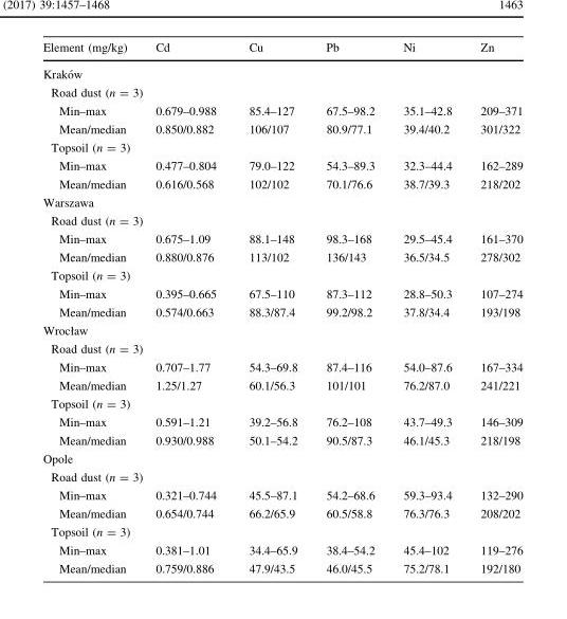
<table><thead><tr><td>Element (mg/kg)</td><td>Cd</td><td>Cu</td><td>Pb</td><td>Ni</td><td>Zn</td></tr></thead><tbody><tr><td colspan="6">Krako´w</td></tr><tr><td colspan="6">Road dust (n = 3)</td></tr><tr><td>Min–max</td><td>0.679–0.988</td><td>85.4–127</td><td>67.5–98.2</td><td>35.1–42.8</td><td>209–371</td></tr><tr><td>Mean/median</td><td>0.850/0.882</td><td>106/107</td><td>80.9/77.1</td><td>39.4/40.2</td><td>301/322</td></tr><tr><td colspan="6">Topsoil (n = 3)</td></tr><tr><td>Min–max</td><td>0.477–0.804</td><td>79.0–122</td><td>54.3–89.3</td><td>32.3–44.4</td><td>162–289</td></tr><tr><td>Mean/median</td><td>0.616/0.568</td><td>102/102</td><td>70.1/76.6</td><td>38.7/39.3</td><td>218/202</td></tr><tr><td colspan="6">Warszawa</td></tr><tr><td colspan="6">Road dust (n = 3)</td></tr><tr><td>Min–max</td><td>0.675–1.09</td><td>88.1–148</td><td>98.3–168</td><td>29.5–45.4</td><td>161–370</td></tr><tr><td>Mean/median</td><td>0.880/0.876</td><td>113/102</td><td>136/143</td><td>36.5/34.5</td><td>278/302</td></tr><tr><td colspan="6">Topsoil (n = 3)</td></tr><tr><td>Min–max</td><td>0.395–0.665</td><td>67.5–110</td><td>87.3–112</td><td>28.8–50.3</td><td>107–274</td></tr><tr><td>Mean/median</td><td>0.574/0.663</td><td>88.3/87.4</td><td>99.2/98.2</td><td>37.8/34.4</td><td>193/198</td></tr><tr><td colspan="6">Wrocław</td></tr><tr><td colspan="6">Road dust (n = 3)</td></tr><tr><td>Min–max</td><td>0.707–1.77</td><td>54.3–69.8</td><td>87.4–116</td><td>54.0–87.6</td><td>167–334</td></tr><tr><td>Mean/median</td><td>1.25/1.27</td><td>60.1/56.3</td><td>101/101</td><td>76.2/87.0</td><td>241/221</td></tr><tr><td colspan="6">Topsoil (n = 3)</td></tr><tr><td>Min–max</td><td>0.591–1.21</td><td>39.2–56.8</td><td>76.2–108</td><td>43.7–49.3</td><td>146–309</td></tr><tr><td>Mean/median</td><td>0.930/0.988</td><td>50.1–54.2</td><td>90.5/87.3</td><td>46.1/45.3</td><td>218/198</td></tr><tr><td colspan="6">Opole</td></tr><tr><td colspan="6">Road dust (n = 3)</td></tr><tr><td>Min–max</td><td>0.321–0.744</td><td>45.5–87.1</td><td>54.2–68.6</td><td>59.3–93.4</td><td>132–290</td></tr><tr><td>Mean/median</td><td>0.654/0.744</td><td>66.2/65.9</td><td>60.5/58.8</td><td>76.3/76.3</td><td>208/202</td></tr><tr><td colspan="6">Topsoil (n = 3)</td></tr><tr><td>Min–max</td><td>0.381–1.01</td><td>34.4–65.9</td><td>38.4–54.2</td><td>45.4–102</td><td>119–276</td></tr><tr><td>Mean/median</td><td>0.759/0.886</td><td>47.9/43.5</td><td>46.0/45.5</td><td>75.2/78.1</td><td>192/180</td></tr></tbody></table>